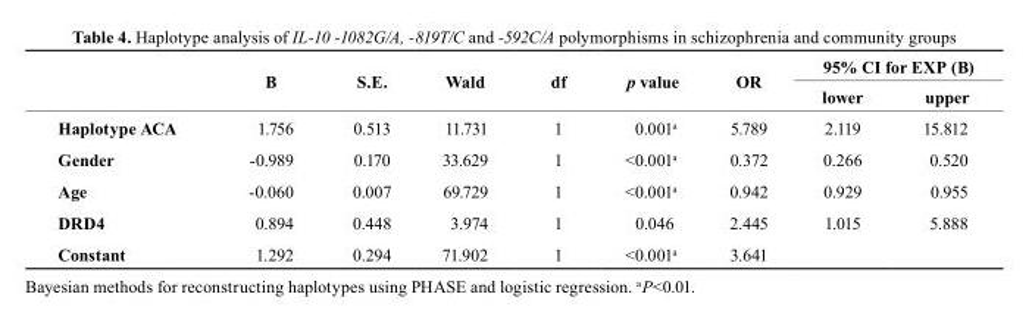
<table><thead><tr><td rowspan="2"></td><td rowspan="2">b</td><td rowspan="2">s.E.</td><td rowspan="2">Wald</td><td rowspan="2">df</td><td rowspan="2">p value</td><td rowspan="2">or</td><td colspan="2">95% cI for EXP (b)</td></tr><tr><td>lower</td><td>upper</td></tr></thead><tbody><tr><td>Haplotype AcA</td><td>1.756</td><td>0.513</td><td>11.731</td><td>1</td><td>0.001<sup>a</sup></td><td>5.789</td><td>2.119</td><td>15.812</td></tr><tr><td>Gender</td><td>-0.989</td><td>0.170</td><td>33.629</td><td>1</td><td>&lt;0.001<sup>a</sup></td><td>0.372</td><td>0.266</td><td>0.520</td></tr><tr><td>Age</td><td>-0.060</td><td>0.007</td><td>69.729</td><td>1</td><td>&lt;0.001<sup>a</sup></td><td>0.942</td><td>0.929</td><td>0.955</td></tr><tr><td>DrD4</td><td>0.894</td><td>0.448</td><td>3.974</td><td>1</td><td>0.046</td><td>2.445</td><td>1.015</td><td>5.888</td></tr><tr><td>constant</td><td>1.292</td><td>0.294</td><td>71.902</td><td>1</td><td>&lt;0.001<sup>a</sup></td><td>3.641</td><td></td><td></td></tr></tbody></table>